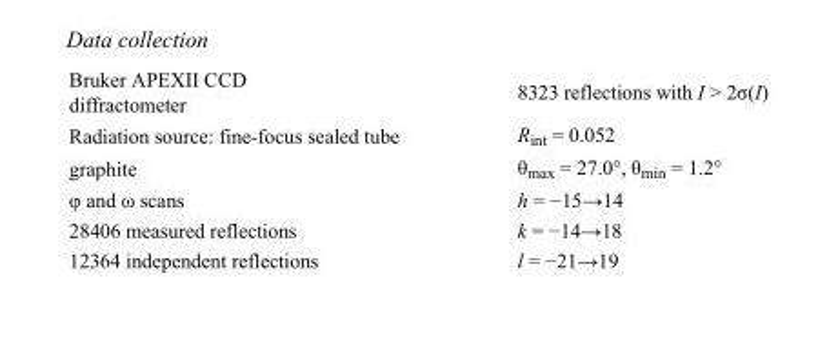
<table><tbody><tr><td>Bruker APEXII CCD diffractometer</td><td>8323 reflections with I &gt; 2σ(I)</td></tr><tr><td>Radiation source: fine-focus sealed tube</td><td>R<sub>int</sub> = 0.052</td></tr><tr><td>graphite</td><td>θ<sub>max</sub> = 27.0°, θ<sub>min</sub> = 1.2°</td></tr><tr><td>φ and ω scans</td><td>h = −15→14</td></tr><tr><td>28406 measured reflections</td><td>k = −14→18</td></tr><tr><td>12364 independent reflections</td><td>l = −21→19</td></tr></tbody></table>